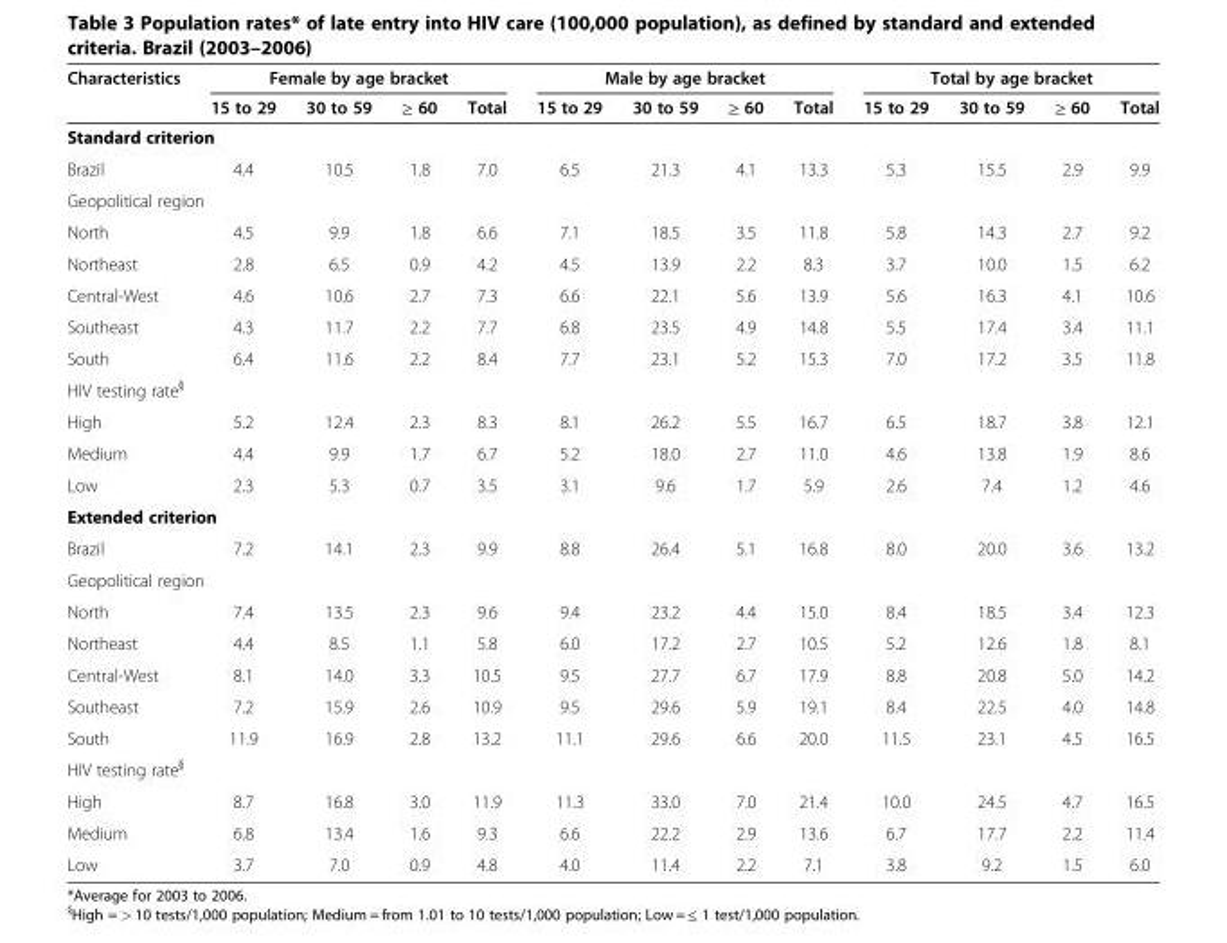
<table><thead><tr><td rowspan="2">Characteristics</td><td colspan="4">Female by age bracket</td><td colspan="4">Male by age bracket</td><td colspan="4">Total by age bracket</td></tr><tr><td>15 to 29</td><td>30 to 59</td><td>≥ 60</td><td>Total</td><td>15 to 29</td><td>30 to 59</td><td>≥ 60</td><td>Total</td><td>15 to 29</td><td>30 to 59</td><td>≥ 60</td><td>Total</td></tr></thead><tbody><tr><td colspan="13">Standard criterion</td></tr><tr><td>Brazil</td><td>4.4</td><td>10.5</td><td>1.8</td><td>7.0</td><td>6.5</td><td>21.3</td><td>4.1</td><td>13.3</td><td>5.3</td><td>15.5</td><td>2.9</td><td>9.9</td></tr><tr><td colspan="13">Geopolitical region</td></tr><tr><td>North</td><td>4.5</td><td>9.9</td><td>1.8</td><td>6.6</td><td>7.1</td><td>18.5</td><td>3.5</td><td>11.8</td><td>5.8</td><td>14.3</td><td>2.7</td><td>9.2</td></tr><tr><td>Northeast</td><td>2.8</td><td>6.5</td><td>0.9</td><td>4.2</td><td>4.5</td><td>13.9</td><td>2.2</td><td>8.3</td><td>3.7</td><td>10.0</td><td>1.5</td><td>6.2</td></tr><tr><td>Central-West</td><td>4.6</td><td>10.6</td><td>2.7</td><td>7.3</td><td>6.6</td><td>22.1</td><td>5.6</td><td>13.9</td><td>5.6</td><td>16.3</td><td>4.1</td><td>10.6</td></tr><tr><td>Southeast</td><td>4.3</td><td>11.7</td><td>2.2</td><td>7.7</td><td>6.8</td><td>23.5</td><td>4.9</td><td>14.8</td><td>5.5</td><td>17.4</td><td>3.4</td><td>11.1</td></tr><tr><td>South</td><td>6.4</td><td>11.6</td><td>2.2</td><td>8.4</td><td>7.7</td><td>23.1</td><td>5.2</td><td>15.3</td><td>7.0</td><td>17.2</td><td>3.5</td><td>11.8</td></tr><tr><td colspan="13">HIV testing rate<sup>§</sup></td></tr><tr><td>High</td><td>5.2</td><td>12.4</td><td>2.3</td><td>8.3</td><td>8.1</td><td>26.2</td><td>5.5</td><td>16.7</td><td>6.5</td><td>18.7</td><td>3.8</td><td>12.1</td></tr><tr><td>Medium</td><td>4.4</td><td>9.9</td><td>1.7</td><td>6.7</td><td>5.2</td><td>18.0</td><td>2.7</td><td>11.0</td><td>4.6</td><td>13.8</td><td>1.9</td><td>8.6</td></tr><tr><td>Low</td><td>2.3</td><td>5.3</td><td>0.7</td><td>3.5</td><td>3.1</td><td>9.6</td><td>1.7</td><td>5.9</td><td>2.6</td><td>7.4</td><td>1.2</td><td>4.6</td></tr><tr><td colspan="13">Extended criterion</td></tr><tr><td>Brazil</td><td>7.2</td><td>14.1</td><td>2.3</td><td>9.9</td><td>8.8</td><td>26.4</td><td>5.1</td><td>16.8</td><td>8.0</td><td>20.0</td><td>3.6</td><td>13.2</td></tr><tr><td colspan="13">Geopolitical region</td></tr><tr><td>North</td><td>7.4</td><td>13.5</td><td>2.3</td><td>9.6</td><td>9.4</td><td>23.2</td><td>4.4</td><td>15.0</td><td>8.4</td><td>18.5</td><td>3.4</td><td>12.3</td></tr><tr><td>Northeast</td><td>4.4</td><td>8.5</td><td>1.1</td><td>5.8</td><td>6.0</td><td>17.2</td><td>2.7</td><td>10.5</td><td>5.2</td><td>12.6</td><td>1.8</td><td>8.1</td></tr><tr><td>Central-West</td><td>8.1</td><td>14.0</td><td>3.3</td><td>10.5</td><td>9.5</td><td>27.7</td><td>6.7</td><td>17.9</td><td>8.8</td><td>20.8</td><td>5.0</td><td>14.2</td></tr><tr><td>Southeast</td><td>7.2</td><td>15.9</td><td>2.6</td><td>10.9</td><td>9.5</td><td>29.6</td><td>5.9</td><td>19.1</td><td>8.4</td><td>22.5</td><td>4.0</td><td>14.8</td></tr><tr><td>South</td><td>11.9</td><td>16.9</td><td>2.8</td><td>13.2</td><td>11.1</td><td>29.6</td><td>6.6</td><td>20.0</td><td>11.5</td><td>23.1</td><td>4.5</td><td>16.5</td></tr><tr><td colspan="13">HIV testing rate<sup>§</sup></td></tr><tr><td>High</td><td>8.7</td><td>16.8</td><td>3.0</td><td>11.9</td><td>11.3</td><td>33.0</td><td>7.0</td><td>21.4</td><td>10.0</td><td>24.5</td><td>4.7</td><td>16.5</td></tr><tr><td>Medium</td><td>6.8</td><td>13.4</td><td>1.6</td><td>9.3</td><td>6.6</td><td>22.2</td><td>2.9</td><td>13.6</td><td>6.7</td><td>17.7</td><td>2.2</td><td>11.4</td></tr><tr><td>Low</td><td>3.7</td><td>7.0</td><td>0.9</td><td>4.8</td><td>4.0</td><td>11.4</td><td>2.2</td><td>7.1</td><td>3.8</td><td>9.2</td><td>1.5</td><td>6.0</td></tr></tbody></table>